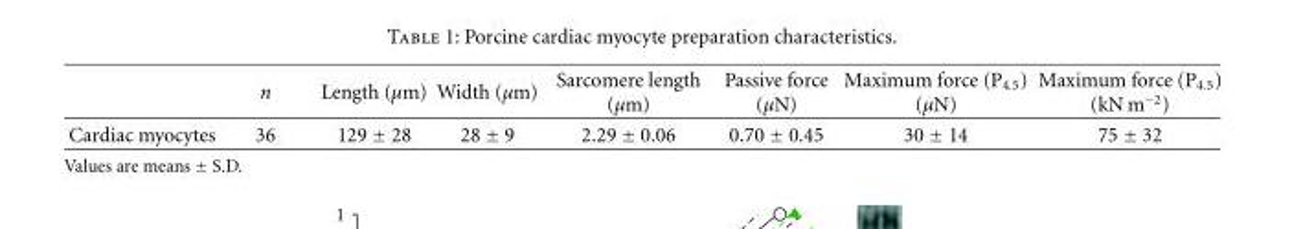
<table><thead><tr><td></td><td>n</td><td>Length (μm)</td><td>Width (μm)</td><td>Sarcomere length (μm)</td><td>Passive force (μN)</td><td>Maximum force (P<sub>4.5</sub>) (μN)</td><td>Maximum force (P<sub>4.5</sub>) (kN m<sup>−2</sup>)</td></tr></thead><tbody><tr><td>Cardiac myocytes</td><td>36</td><td>129 ± 28</td><td>28 ± 9</td><td>2.29 ± 0.06</td><td>0.70 ± 0.45</td><td>30 ± 14</td><td>75 ± 32</td></tr></tbody></table>